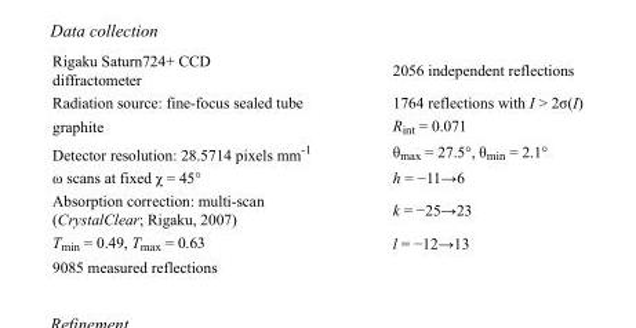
<table><tbody><tr><td>Rigaku Saturn724+ CCD diffractometer</td><td>2056 independent reflections</td></tr><tr><td>Radiation source: fine-focus sealed tube</td><td>1764 reflections with I &gt; 2σ(I)</td></tr><tr><td>graphite</td><td>R<sub>int</sub> = 0.071</td></tr><tr><td>Detector resolution: 28.5714 pixels mm<sup>-1</sup></td><td>θ<sub>max</sub> = 27.5°, θ<sub>min</sub> = 2.1°</td></tr><tr><td>ω scans at fixed χ = 45°</td><td>h = −11→6</td></tr><tr><td>Absorption correction: multi-scan (CrystalClear; Rigaku, 2007)</td><td>k = −25→23</td></tr><tr><td>T<sub>min</sub> = 0.49, T<sub>max</sub> = 0.63</td><td>l = −12→13</td></tr><tr><td>9085 measured reflections</td><td></td></tr></tbody></table>